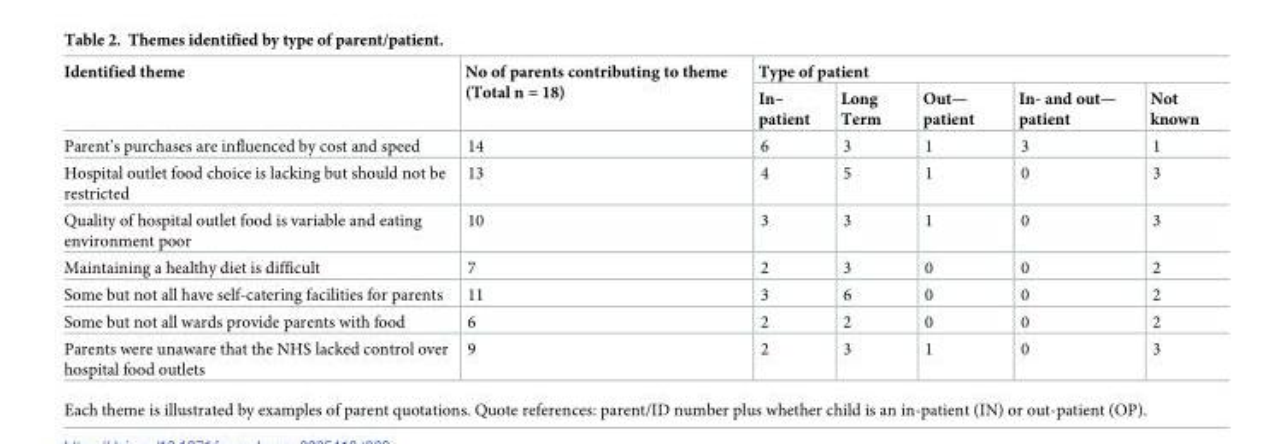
<table><thead><tr><td rowspan="2">Identified theme</td><td rowspan="2">No of parents contributing to theme (Total n = 18)</td><td colspan="5">Type of patient</td></tr><tr><td>In– patient</td><td>Long Term</td><td>Out— patient</td><td>In- and out— patient</td><td>Not known</td></tr></thead><tbody><tr><td>Parent’s purchases are influenced by cost and speed</td><td>14</td><td>6</td><td>3</td><td>1</td><td>3</td><td>1</td></tr><tr><td>Hospital outlet food choice is lacking but should not be restricted</td><td>13</td><td>4</td><td>5</td><td>1</td><td>0</td><td>3</td></tr><tr><td>Quality of hospital outlet food is variable and eating environment poor</td><td>10</td><td>3</td><td>3</td><td>1</td><td>0</td><td>3</td></tr><tr><td>Maintaining a healthy diet is difficult</td><td>7</td><td>2</td><td>3</td><td>0</td><td>0</td><td>2</td></tr><tr><td>Some but not all have self-catering facilities for parents</td><td>11</td><td>3</td><td>6</td><td>0</td><td>0</td><td>2</td></tr><tr><td>Some but not all wards provide parents with food</td><td>6</td><td>2</td><td>2</td><td>0</td><td>0</td><td>2</td></tr><tr><td>Parents were unaware that the NHS lacked control over hospital food outlets</td><td>9</td><td>2</td><td>3</td><td>1</td><td>0</td><td>3</td></tr></tbody></table>